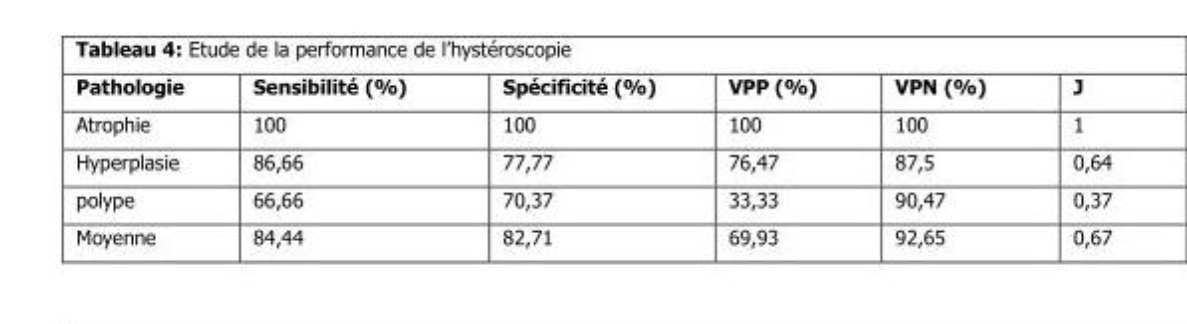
<table><thead><tr><td>Pathologie</td><td>Sensibilité (%)</td><td>Spécificité (%)</td><td>VPP (%)</td><td>VPN (%)</td><td>J</td></tr></thead><tbody><tr><td>Atrophie</td><td>100</td><td>100</td><td>100</td><td>100</td><td>1</td></tr><tr><td>Hyperplasie</td><td>86,66</td><td>77,77</td><td>76,47</td><td>87,5</td><td>0,64</td></tr><tr><td>polype</td><td>66,66</td><td>70,37</td><td>33,33</td><td>90,47</td><td>0,37</td></tr><tr><td>Moyenne</td><td>84,44</td><td>82,71</td><td>69,93</td><td>92,65</td><td>0,67</td></tr></tbody></table>